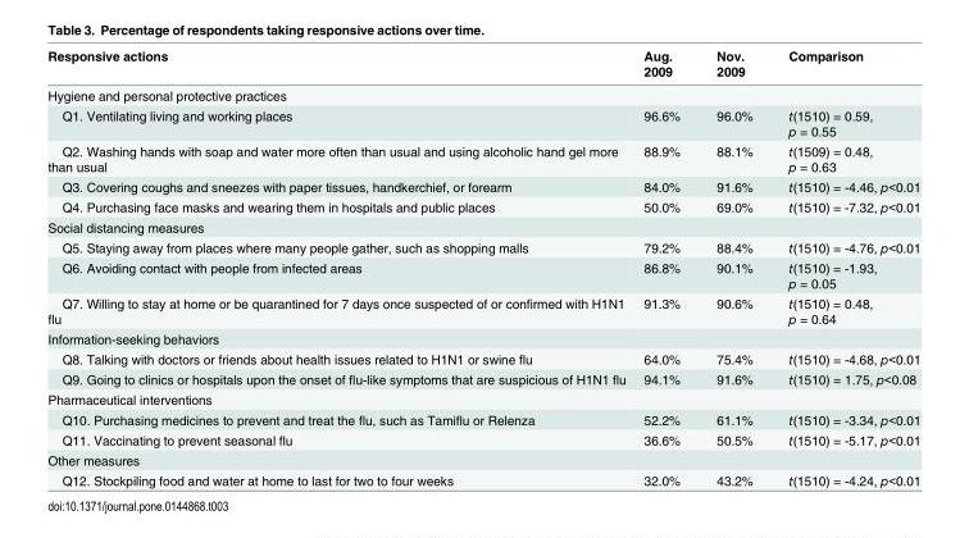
<table><thead><tr><td>Responsive actions</td><td>Aug. 2009</td><td>Nov. 2009</td><td>Comparison</td></tr></thead><tbody><tr><td colspan="4">Hygiene and personal protective practices</td></tr><tr><td>Q1. Ventilating living and working places</td><td>96.6%</td><td>96.0%</td><td>t(1510) = 0.59, p = 0.55</td></tr><tr><td>Q2. Washing hands with soap and water more often than usual and using alcoholic hand gel more than usual</td><td>88.9%</td><td>88.1%</td><td>t(1509) = 0.48, p = 0.63</td></tr><tr><td>Q3. Covering coughs and sneezes with paper tissues, handkerchief, or forearm</td><td>84.0%</td><td>91.6%</td><td>t(1510) = -4.46, p&lt;0.01</td></tr><tr><td>Q4. Purchasing face masks and wearing them in hospitals and public places</td><td>50.0%</td><td>69.0%</td><td>t(1510) = -7.32, p&lt;0.01</td></tr><tr><td colspan="4">Social distancing measures</td></tr><tr><td>Q5. Staying away from places where many people gather, such as shopping malls</td><td>79.2%</td><td>88.4%</td><td>t(1510) = -4.76, p&lt;0.01</td></tr><tr><td>Q6. Avoiding contact with people from infected areas</td><td>86.8%</td><td>90.1%</td><td>t(1510) = -1.93, p = 0.05</td></tr><tr><td>Q7. Willing to stay at home or be quarantined for 7 days once suspected of or confirmed with H1N1 flu</td><td>91.3%</td><td>90.6%</td><td>t(1510) = 0.48, p = 0.64</td></tr><tr><td colspan="4">Information-seeking behaviors</td></tr><tr><td>Q8. Talking with doctors or friends about health issues related to H1N1 or swine flu</td><td>64.0%</td><td>75.4%</td><td>t(1510) = -4.68, p&lt;0.01</td></tr><tr><td>Q9. Going to clinics or hospitals upon the onset of flu-like symptoms that are suspicious of H1N1 flu</td><td>94.1%</td><td>91.6%</td><td>t(1510) = 1.75, p&lt;0.08</td></tr><tr><td colspan="4">Pharmaceutical interventions</td></tr><tr><td>Q10. Purchasing medicines to prevent and treat the flu, such as Tamiflu or Relenza</td><td>52.2%</td><td>61.1%</td><td>t(1510) = -3.34, p&lt;0.01</td></tr><tr><td>Q11. Vaccinating to prevent seasonal flu</td><td>36.6%</td><td>50.5%</td><td>t(1510) = -5.17, p&lt;0.01</td></tr><tr><td colspan="4">Other measures</td></tr><tr><td>Q12. Stockpiling food and water at home to last for two to four weeks</td><td>32.0%</td><td>43.2%</td><td>t(1510) = -4.24, p&lt;0.01</td></tr></tbody></table>